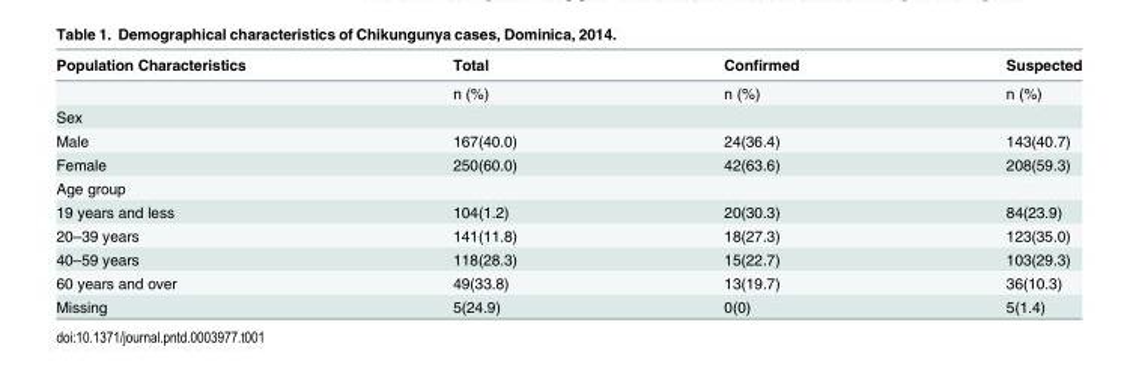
<table><thead><tr><td>Population Characteristics</td><td>Total</td><td>Confirmed</td><td>Suspected</td></tr></thead><tbody><tr><td></td><td>n (%)</td><td>n (%)</td><td>n (%)</td></tr><tr><td colspan="4">Sex</td></tr><tr><td>Male</td><td>167(40.0)</td><td>24(36.4)</td><td>143(40.7)</td></tr><tr><td>Female</td><td>250(60.0)</td><td>42(63.6)</td><td>208(59.3)</td></tr><tr><td colspan="4">Age group</td></tr><tr><td>19 years and less</td><td>104(1.2)</td><td>20(30.3)</td><td>84(23.9)</td></tr><tr><td>20–39 years</td><td>141(11.8)</td><td>18(27.3)</td><td>123(35.0)</td></tr><tr><td>40–59 years</td><td>118(28.3)</td><td>15(22.7)</td><td>103(29.3)</td></tr><tr><td>60 years and over</td><td>49(33.8)</td><td>13(19.7)</td><td>36(10.3)</td></tr><tr><td>Missing</td><td>5(24.9)</td><td>0(0)</td><td>5(1.4)</td></tr></tbody></table>